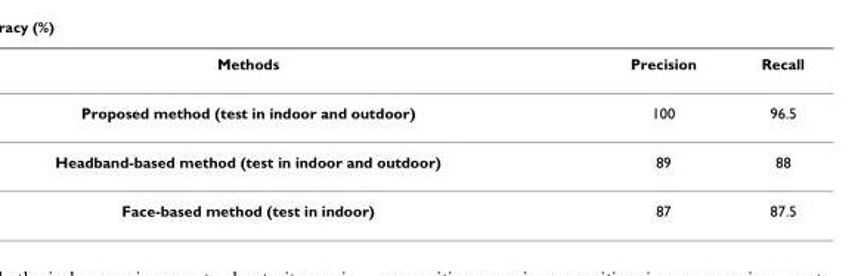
<table><thead><tr><td>Methods</td><td>Precision</td><td>Recall</td></tr></thead><tbody><tr><td>Proposed method (test in indoor and outdoor)</td><td>100</td><td>96.5</td></tr><tr><td>Headband-based method (test in indoor and outdoor)</td><td>89</td><td>88</td></tr><tr><td>Face-based method (test in indoor)</td><td>87</td><td>87.5</td></tr></tbody></table>